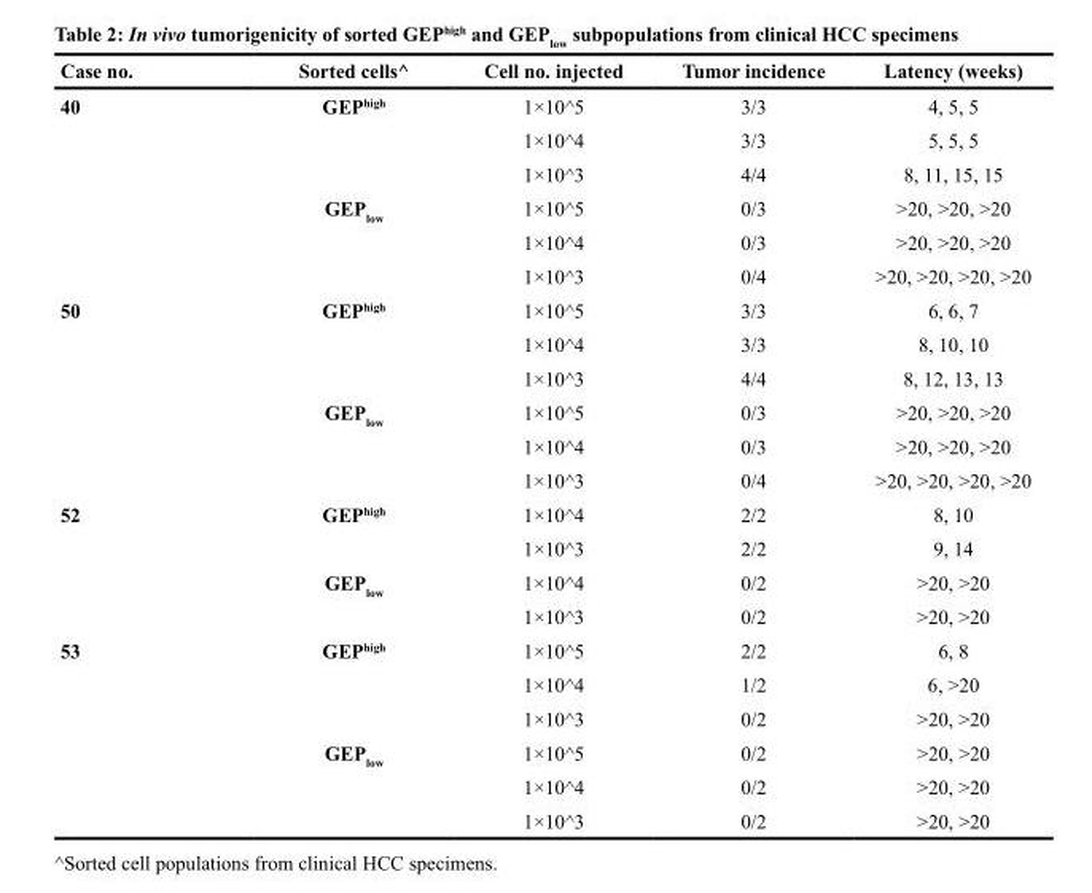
<table><thead><tr><td>Case no.</td><td>Sorted cells^</td><td>Cell no. injected</td><td>Tumor incidence</td><td>Latency (weeks)</td></tr></thead><tbody><tr><td rowspan="6">40</td><td>GEP<sup>high</sup></td><td>1×10^5</td><td>3/3</td><td>4, 5, 5</td></tr><tr><td></td><td>1×10^4</td><td>3/3</td><td>5, 5, 5</td></tr><tr><td></td><td>1×10^3</td><td>4/4</td><td>8, 11, 15, 15</td></tr><tr><td>GEP<sub>low</sub></td><td>1×10^5</td><td>0/3</td><td>&gt;20, &gt;20, &gt;20</td></tr><tr><td></td><td>1×10^4</td><td>0/3</td><td>&gt;20, &gt;20, &gt;20</td></tr><tr><td></td><td>1×10^3</td><td>0/4</td><td>&gt;20, &gt;20, &gt;20, &gt;20</td></tr><tr><td rowspan="6">50</td><td>GEP<sup>high</sup></td><td>1×10^5</td><td>3/3</td><td>6, 6, 7</td></tr><tr><td></td><td>1×10^4</td><td>3/3</td><td>8, 10, 10</td></tr><tr><td></td><td>1×10^3</td><td>4/4</td><td>8, 12, 13, 13</td></tr><tr><td>GEP<sub>low</sub></td><td>1×10^5</td><td>0/3</td><td>&gt;20, &gt;20, &gt;20</td></tr><tr><td></td><td>1×10^4</td><td>0/3</td><td>&gt;20, &gt;20, &gt;20</td></tr><tr><td></td><td>1×10^3</td><td>0/4</td><td>&gt;20, &gt;20, &gt;20, &gt;20</td></tr><tr><td rowspan="4">52</td><td>GEP<sup>high</sup></td><td>1×10^4</td><td>2/2</td><td>8, 10</td></tr><tr><td></td><td>1×10^3</td><td>2/2</td><td>9, 14</td></tr><tr><td>GEP<sub>low</sub></td><td>1×10^4</td><td>0/2</td><td>&gt;20, &gt;20</td></tr><tr><td></td><td>1×10^3</td><td>0/2</td><td>&gt;20, &gt;20</td></tr><tr><td rowspan="6">53</td><td>GEP<sup>high</sup></td><td>1×10^5</td><td>2/2</td><td>6, 8</td></tr><tr><td></td><td>1×10^4</td><td>1/2</td><td>6, &gt;20</td></tr><tr><td></td><td>1×10^3</td><td>0/2</td><td>&gt;20, &gt;20</td></tr><tr><td>GEP<sub>low</sub></td><td>1×10^5</td><td>0/2</td><td>&gt;20, &gt;20</td></tr><tr><td></td><td>1×10^4</td><td>0/2</td><td>&gt;20, &gt;20</td></tr><tr><td></td><td>1×10^3</td><td>0/2</td><td>&gt;20, &gt;20</td></tr></tbody></table>